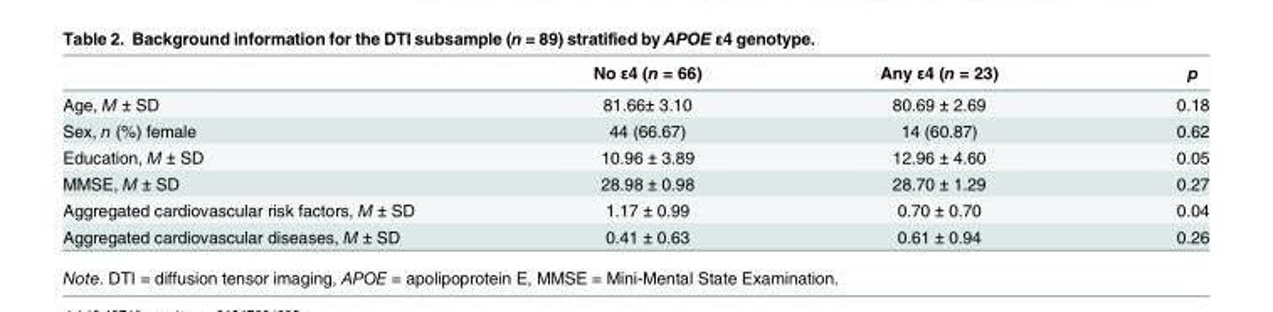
<table><thead><tr><td></td><td>No ε4 (n = 66)</td><td>Any ε4 (n = 23)</td><td>p</td></tr></thead><tbody><tr><td>Age, M ± SD</td><td>81.66± 3.10</td><td>80.69 ± 2.69</td><td>0.18</td></tr><tr><td>Sex, n (%) female</td><td>44 (66.67)</td><td>14 (60.87)</td><td>0.62</td></tr><tr><td>Education, M ± SD</td><td>10.96 ± 3.89</td><td>12.96 ± 4.60</td><td>0.05</td></tr><tr><td>MMSE, M ± SD</td><td>28.98 ± 0.98</td><td>28.70 ± 1.29</td><td>0.27</td></tr><tr><td>Aggregated cardiovascular risk factors, M ± SD</td><td>1.17 ± 0.99</td><td>0.70 ± 0.70</td><td>0.04</td></tr><tr><td>Aggregated cardiovascular diseases, M ± SD</td><td>0.41 ± 0.63</td><td>0.61 ± 0.94</td><td>0.26</td></tr></tbody></table>